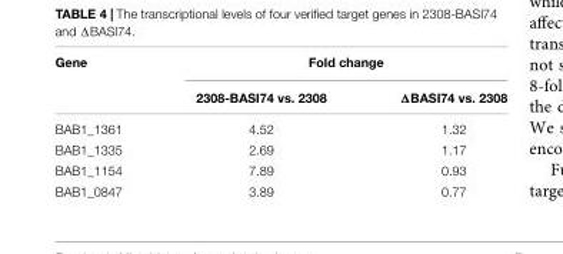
<table><thead><tr><td rowspan="2">Gene</td><td colspan="2">Fold change</td></tr><tr><td>2308-BASI74 vs. 2308</td><td>ΔBASI74 vs. 2308</td></tr></thead><tbody><tr><td>BAB1_1361</td><td>4.52</td><td>1.32</td></tr><tr><td>BAB1_1335</td><td>2.69</td><td>1.17</td></tr><tr><td>BAB1_1154</td><td>7.89</td><td>0.93</td></tr><tr><td>BAB1_0847</td><td>3.89</td><td>0.77</td></tr></tbody></table>